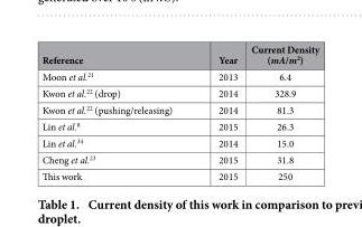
<table><thead><tr><td>Reference</td><td>Year</td><td>Current Density (mA/m<sup>2</sup>)</td></tr></thead><tbody><tr><td>Moon et al.<sup>21</sup></td><td>2013</td><td>6.4</td></tr><tr><td>Kwon et al.<sup>22</sup> (drop)</td><td>2014</td><td>328.9</td></tr><tr><td>Kwon et al.<sup>22</sup> (pushing/releasing)</td><td>2014</td><td>81.3</td></tr><tr><td>Lin et al.<sup>8</sup></td><td>2015</td><td>26.3</td></tr><tr><td>Lin et al.<sup>34</sup></td><td>2014</td><td>15.0</td></tr><tr><td>Cheng et al.<sup>23</sup></td><td>2015</td><td>31.8</td></tr><tr><td>This work</td><td>2015</td><td>250</td></tr></tbody></table>